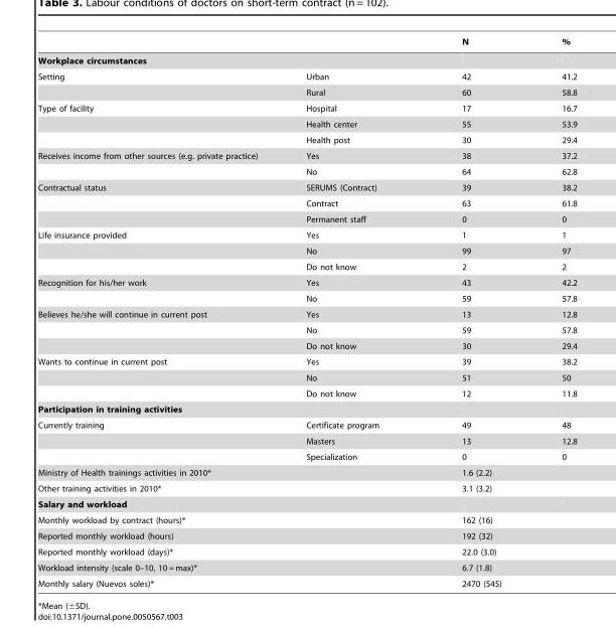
<table><thead><tr><td></td><td></td><td>N</td><td>%</td></tr></thead><tbody><tr><td colspan="4">Workplace circumstances</td></tr><tr><td rowspan="2">Setting</td><td>Urban</td><td>42</td><td>41.2</td></tr><tr><td>Rural</td><td>60</td><td>58.8</td></tr><tr><td rowspan="3">Type of facility</td><td>Hospital</td><td>17</td><td>16.7</td></tr><tr><td>Health center</td><td>55</td><td>53.9</td></tr><tr><td>Health post</td><td>30</td><td>29.4</td></tr><tr><td rowspan="2">Receives income from other sources (e.g. private practice)</td><td>Yes</td><td>38</td><td>37.2</td></tr><tr><td>No</td><td>64</td><td>62.8</td></tr><tr><td rowspan="3">Contractual status</td><td>SERUMS (Contract)</td><td>39</td><td>38.2</td></tr><tr><td>Contract</td><td>63</td><td>61.8</td></tr><tr><td>Permanent staff</td><td>0</td><td>0</td></tr><tr><td rowspan="3">Life insurance provided</td><td>Yes</td><td>1</td><td>1</td></tr><tr><td>No</td><td>99</td><td>97</td></tr><tr><td>Do not know</td><td>2</td><td>2</td></tr><tr><td rowspan="2">Recognition for his/her work</td><td>Yes</td><td>43</td><td>42.2</td></tr><tr><td>No</td><td>59</td><td>57.8</td></tr><tr><td rowspan="3">Believes he/she will continue in current post</td><td>Yes</td><td>13</td><td>12.8</td></tr><tr><td>No</td><td>59</td><td>57.8</td></tr><tr><td>Do not know</td><td>30</td><td>29.4</td></tr><tr><td rowspan="3">Wants to continue in current post</td><td>Yes</td><td>39</td><td>38.2</td></tr><tr><td>No</td><td>51</td><td>50</td></tr><tr><td>Do not know</td><td>12</td><td>11.8</td></tr><tr><td colspan="4">Participation in training activities</td></tr><tr><td rowspan="3">Currently training</td><td>Certificate program</td><td>49</td><td>48</td></tr><tr><td>Masters</td><td>13</td><td>12.8</td></tr><tr><td>Specialization</td><td>0</td><td>0</td></tr><tr><td colspan="2">Ministry of Health trainings activities in 2010*</td><td colspan="2">1.6 (2.2)</td></tr><tr><td colspan="2">Other training activities in 2010*</td><td colspan="2">3.1 (3.2)</td></tr><tr><td colspan="4">Salary and workload</td></tr><tr><td colspan="2">Monthly workload by contract (hours)*</td><td colspan="2">162 (16)</td></tr><tr><td colspan="2">Reported monthly workload (hours)</td><td colspan="2">192 (32)</td></tr><tr><td colspan="2">Reported monthly workload (days)*</td><td colspan="2">22.0 (3.0)</td></tr><tr><td colspan="2">Workload intensity (scale 0–10, 10 = max)*</td><td colspan="2">6.7 (1.8)</td></tr><tr><td colspan="2">Monthly salary (Nuevos soles)*</td><td colspan="2">2470 (545)</td></tr></tbody></table>